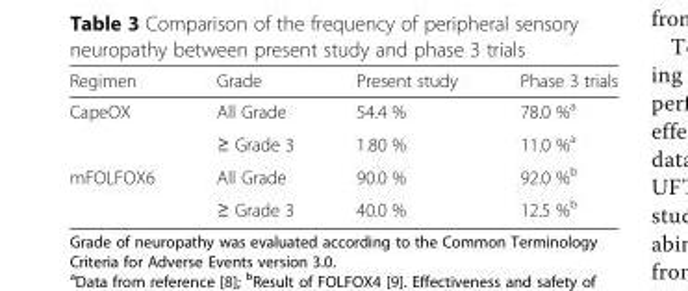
<table><thead><tr><td>Regimen</td><td>Grade</td><td>Present study</td><td>Phase 3 trials</td></tr></thead><tbody><tr><td rowspan="2">CapeOX</td><td>All Grade</td><td>54.4 %</td><td>78.0 %<sup>a</sup></td></tr><tr><td>≥ Grade 3</td><td>1.80 %</td><td>11.0 %<sup>a</sup></td></tr><tr><td rowspan="2">mFOLFOX6</td><td>All Grade</td><td>90.0 %</td><td>92.0 %<sup>b</sup></td></tr><tr><td>≥ Grade 3</td><td>40.0 %</td><td>12.5 %<sup>b</sup></td></tr></tbody></table>